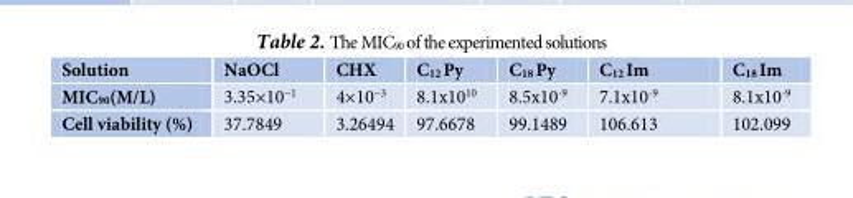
<table><thead><tr><td>Solution</td><td>NaOCl</td><td>CHX</td><td>C<sub>12</sub> Py</td><td>C<sub>18</sub> Py</td><td>C<sub>12</sub> Im</td><td>C<sub>18</sub> Im</td></tr></thead><tbody><tr><td>MIC<sub>90</sub>(M/L)</td><td>3.35×10<sup>−1</sup></td><td>4×10<sup>−3</sup></td><td>8.1x10<sup>10</sup></td><td>8.5x10<sup>-9</sup></td><td>7.1x10<sup>-9</sup></td><td>8.1x10<sup>-9</sup></td></tr><tr><td>Cell viability (%)</td><td>37.7849</td><td>3.26494</td><td>97.6678</td><td>99.1489</td><td>106.613</td><td>102.099</td></tr></tbody></table>